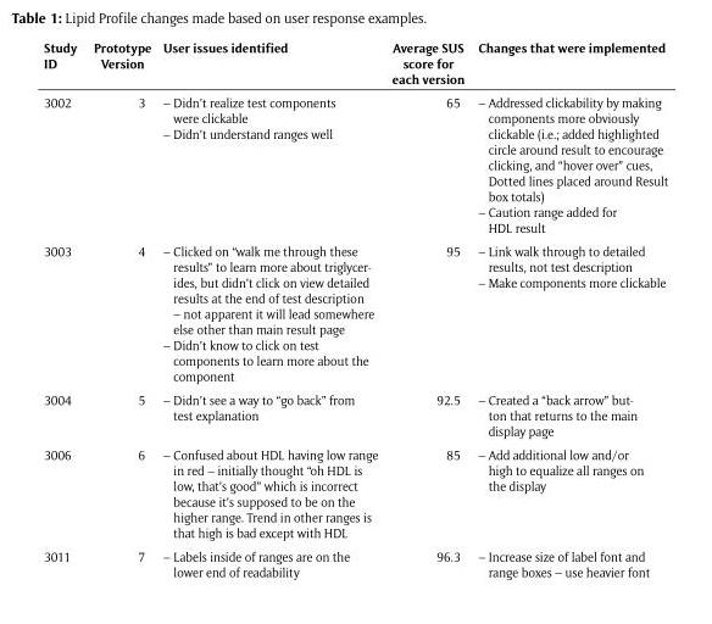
<table><thead><tr><td>Study ID</td><td>Prototype Version</td><td>User issues identified</td><td>Average SUS score for each version</td><td>Changes that were implemented</td></tr></thead><tbody><tr><td>3002</td><td>3</td><td>– Didn’t realize test components were clickable – Didn’t understand ranges well</td><td>65</td><td>– Addressed clickability by making components more obviously clickable (i.e.; added highlighted circle around result to encourage clicking, and “hover over” cues, Dotted lines placed around Result box totals) – Caution range added for HDL result</td></tr><tr><td>3003</td><td>4</td><td>– Clicked on “walk me through these results” to learn more about triglycer- ides, but didn’t click on view detailed results at the end of test description – not apparent it will lead somewhere else other than main result page – Didn’t know to click on test components to learn more about the component</td><td>95</td><td>– Link walk through to detailed results, not test description – Make components more clickable</td></tr><tr><td>3004</td><td>5</td><td>– Didn’t see a way to “go back” from test explanation</td><td>92.5</td><td>– Created a “back arrow” but- ton that returns to the main display page</td></tr><tr><td>3006</td><td>6</td><td>– Confused about HDL having low range in red – initially thought “oh HDL is low, that’s good” which is incorrect because it’s supposed to be on the higher range. Trend in other ranges is that high is bad except with HDL</td><td>85</td><td>– Add additional low and/or high to equalize all ranges on the display</td></tr><tr><td>3011</td><td>7</td><td>– Labels inside of ranges are on the lower end of readability</td><td>96.3</td><td>– Increase size of label font and range boxes – use heavier font</td></tr></tbody></table>